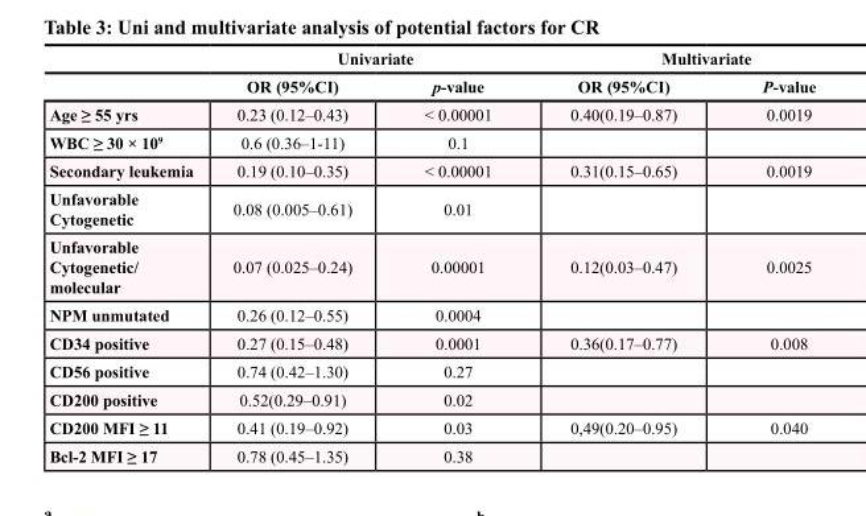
<table><thead><tr><td rowspan="2"></td><td colspan="2">Univariate</td><td colspan="2">Multivariate</td></tr><tr><td>OR (95%CI)</td><td>p-value</td><td>OR (95%CI)</td><td>P-value</td></tr></thead><tbody><tr><td>Age ≥ 55 yrs</td><td>0.23 (0.12–0.43)</td><td>&lt; 0.00001</td><td>0.40(0.19–0.87)</td><td>0.0019</td></tr><tr><td>WBC ≥ 30 × 10<sup>9</sup></td><td>0.6 (0.36–1-11)</td><td>0.1</td><td></td><td></td></tr><tr><td>Secondary leukemia</td><td>0.19 (0.10–0.35)</td><td>&lt; 0.00001</td><td>0.31(0.15–0.65)</td><td>0.0019</td></tr><tr><td>Unfavorable Cytogenetic</td><td>0.08 (0.005–0.61)</td><td>0.01</td><td></td><td></td></tr><tr><td>Unfavorable Cytogenetic/ molecular</td><td>0.07 (0.025–0.24)</td><td>0.00001</td><td>0.12(0.03–0.47)</td><td>0.0025</td></tr><tr><td>NPM unmutated</td><td>0.26 (0.12–0.55)</td><td>0.0004</td><td></td><td></td></tr><tr><td>CD34 positive</td><td>0.27 (0.15–0.48)</td><td>0.0001</td><td>0.36(0.17–0.77)</td><td>0.008</td></tr><tr><td>CD56 positive</td><td>0.74 (0.42–1.30)</td><td>0.27</td><td></td><td></td></tr><tr><td>CD200 positive</td><td>0.52(0.29–0.91)</td><td>0.02</td><td></td><td></td></tr><tr><td>CD200 MFI ≥ 11</td><td>0.41 (0.19–0.92)</td><td>0.03</td><td>0,49(0.20–0.95)</td><td>0.040</td></tr><tr><td>Bcl-2 MFI ≥ 17</td><td>0.78 (0.45–1.35)</td><td>0.38</td><td></td><td></td></tr></tbody></table>